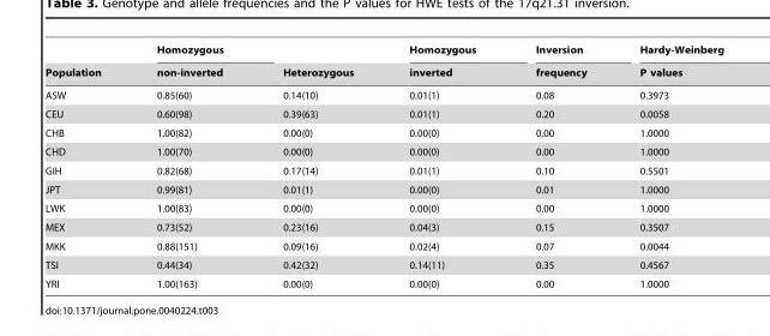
<table><thead><tr><td rowspan="2">Population</td><td rowspan="2">Homozygous non-inverted</td><td rowspan="2">Heterozygous</td><td rowspan="2">Homozygous inverted</td><td rowspan="2">Inversion frequency</td><td rowspan="2">Hardy-Weinberg P values</td></tr><tr></tr></thead><tbody><tr><td>ASW</td><td>0.85(60)</td><td>0.14(10)</td><td>0.01(1)</td><td>0.08</td><td>0.3973</td></tr><tr><td>CEU</td><td>0.60(98)</td><td>0.39(63)</td><td>0.01(1)</td><td>0.20</td><td>0.0058</td></tr><tr><td>CHB</td><td>1.00(82)</td><td>0.00(0)</td><td>0.00(0)</td><td>0.00</td><td>1.0000</td></tr><tr><td>CHD</td><td>1.00(70)</td><td>0.00(0)</td><td>0.00(0)</td><td>0.00</td><td>1.0000</td></tr><tr><td>GIH</td><td>0.82(68)</td><td>0.17(14)</td><td>0.01(1)</td><td>0.10</td><td>0.5501</td></tr><tr><td>JPT</td><td>0.99(81)</td><td>0.01(1)</td><td>0.00(0)</td><td>0.01</td><td>1.0000</td></tr><tr><td>LWK</td><td>1.00(83)</td><td>0.00(0)</td><td>0.00(0)</td><td>0.00</td><td>1.0000</td></tr><tr><td>MEX</td><td>0.73(52)</td><td>0.23(16)</td><td>0.04(3)</td><td>0.15</td><td>0.3507</td></tr><tr><td>MKK</td><td>0.88(151)</td><td>0.09(16)</td><td>0.02(4)</td><td>0.07</td><td>0.0044</td></tr><tr><td>TSI</td><td>0.44(34)</td><td>0.42(32)</td><td>0.14(11)</td><td>0.35</td><td>0.4567</td></tr><tr><td>YRI</td><td>1.00(163)</td><td>0.00(0)</td><td>0.00(0)</td><td>0.00</td><td>1.0000</td></tr></tbody></table>